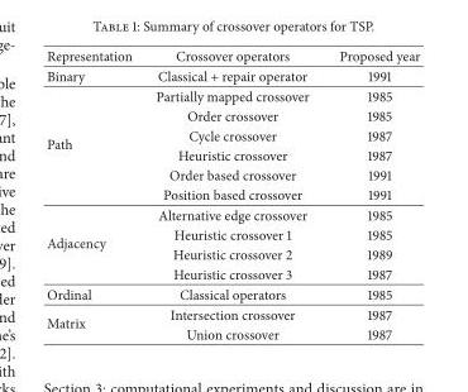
<table><thead><tr><td>Representation</td><td>Crossover operators</td><td>Proposed year</td></tr></thead><tbody><tr><td>Binary</td><td>Classical + repair operator</td><td>1991</td></tr><tr><td rowspan="6">Path</td><td>Partially mapped crossover</td><td>1985</td></tr><tr><td>Order crossover</td><td>1985</td></tr><tr><td>Cycle crossover</td><td>1987</td></tr><tr><td>Heuristic crossover</td><td>1987</td></tr><tr><td>Order based crossover</td><td>1991</td></tr><tr><td>Position based crossover</td><td>1991</td></tr><tr><td rowspan="4">Adjacency</td><td>Alternative edge crossover</td><td>1985</td></tr><tr><td>Heuristic crossover 1</td><td>1985</td></tr><tr><td>Heuristic crossover 2</td><td>1989</td></tr><tr><td>Heuristic crossover 3</td><td>1987</td></tr><tr><td>Ordinal</td><td>Classical operators</td><td>1985</td></tr><tr><td rowspan="2">Matrix</td><td>Intersection crossover</td><td>1987</td></tr><tr><td>Union crossover</td><td>1987</td></tr></tbody></table>